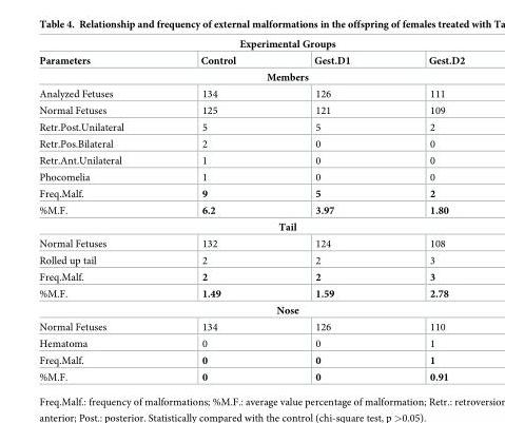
<table><thead><tr><td colspan="4">Experimental Groups</td></tr><tr><td>Parameters</td><td>Control</td><td>Gest.D1</td><td>Gest.D2</td></tr></thead><tbody><tr><td colspan="4">Members</td></tr><tr><td>Analyzed Fetuses</td><td>134</td><td>126</td><td>111</td></tr><tr><td>Normal Fetuses</td><td>125</td><td>121</td><td>109</td></tr><tr><td>Retr.Post.Unilateral</td><td>5</td><td>5</td><td>2</td></tr><tr><td>Retr.Pos.Bilateral</td><td>2</td><td>0</td><td>0</td></tr><tr><td>Retr.Ant.Unilateral</td><td>1</td><td>0</td><td>0</td></tr><tr><td>Phocomelia</td><td>1</td><td>0</td><td>0</td></tr><tr><td>Freq.Malf.</td><td>9</td><td>5</td><td>2</td></tr><tr><td>%M.F.</td><td>6.2</td><td>3.97</td><td>1.80</td></tr><tr><td colspan="4">Tail</td></tr><tr><td>Normal Fetuses</td><td>132</td><td>124</td><td>108</td></tr><tr><td>Rolled up tail</td><td>2</td><td>2</td><td>3</td></tr><tr><td>Freq.Malf.</td><td>2</td><td>2</td><td>3</td></tr><tr><td>%M.F.</td><td>1.49</td><td>1.59</td><td>2.78</td></tr><tr><td colspan="4">Nose</td></tr><tr><td>Normal Fetuses</td><td>134</td><td>126</td><td>110</td></tr><tr><td>Hematoma</td><td>0</td><td>0</td><td>1</td></tr><tr><td>Freq.Malf.</td><td>0</td><td>0</td><td>1</td></tr><tr><td>%M.F.</td><td>0</td><td>0</td><td>0.91</td></tr></tbody></table>